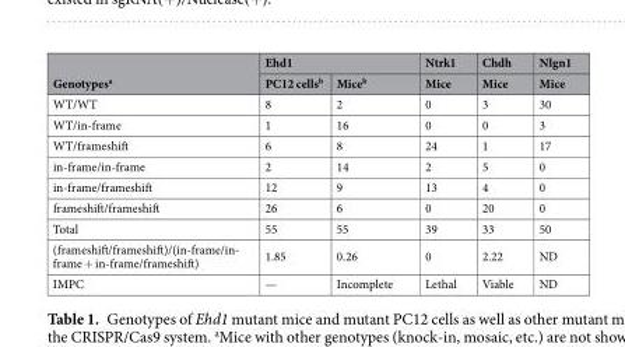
<table><thead><tr><td rowspan="2">Genotypes<sup>a</sup></td><td colspan="2">Ehd1</td><td rowspan="2">Ntrk1 Mice</td><td rowspan="2">Chdh Mice</td><td rowspan="2">Nlgn1 Mice</td></tr><tr><td>PC12 cells<sup>b</sup></td><td>Mice<sup>b</sup></td></tr></thead><tbody><tr><td>WT/WT</td><td>8</td><td>2</td><td>0</td><td>3</td><td>30</td></tr><tr><td>WT/in-frame</td><td>1</td><td>16</td><td>0</td><td>0</td><td>3</td></tr><tr><td>WT/frameshift</td><td>6</td><td>8</td><td>24</td><td>1</td><td>17</td></tr><tr><td>in-frame/in-frame</td><td>2</td><td>14</td><td>2</td><td>5</td><td>0</td></tr><tr><td>in-frame/frameshift</td><td>12</td><td>9</td><td>13</td><td>4</td><td>0</td></tr><tr><td>frameshift/frameshift</td><td>26</td><td>6</td><td>0</td><td>20</td><td>0</td></tr><tr><td>Total</td><td>55</td><td>55</td><td>39</td><td>33</td><td>50</td></tr><tr><td>(frameshift/frameshift)/(in-frame/in- frame + in-frame/frameshift)</td><td>1.85</td><td>0.26</td><td>0</td><td>2.22</td><td>ND</td></tr><tr><td>IMPC</td><td>—</td><td>Incomplete</td><td>Lethal</td><td>Viable</td><td>ND</td></tr></tbody></table>